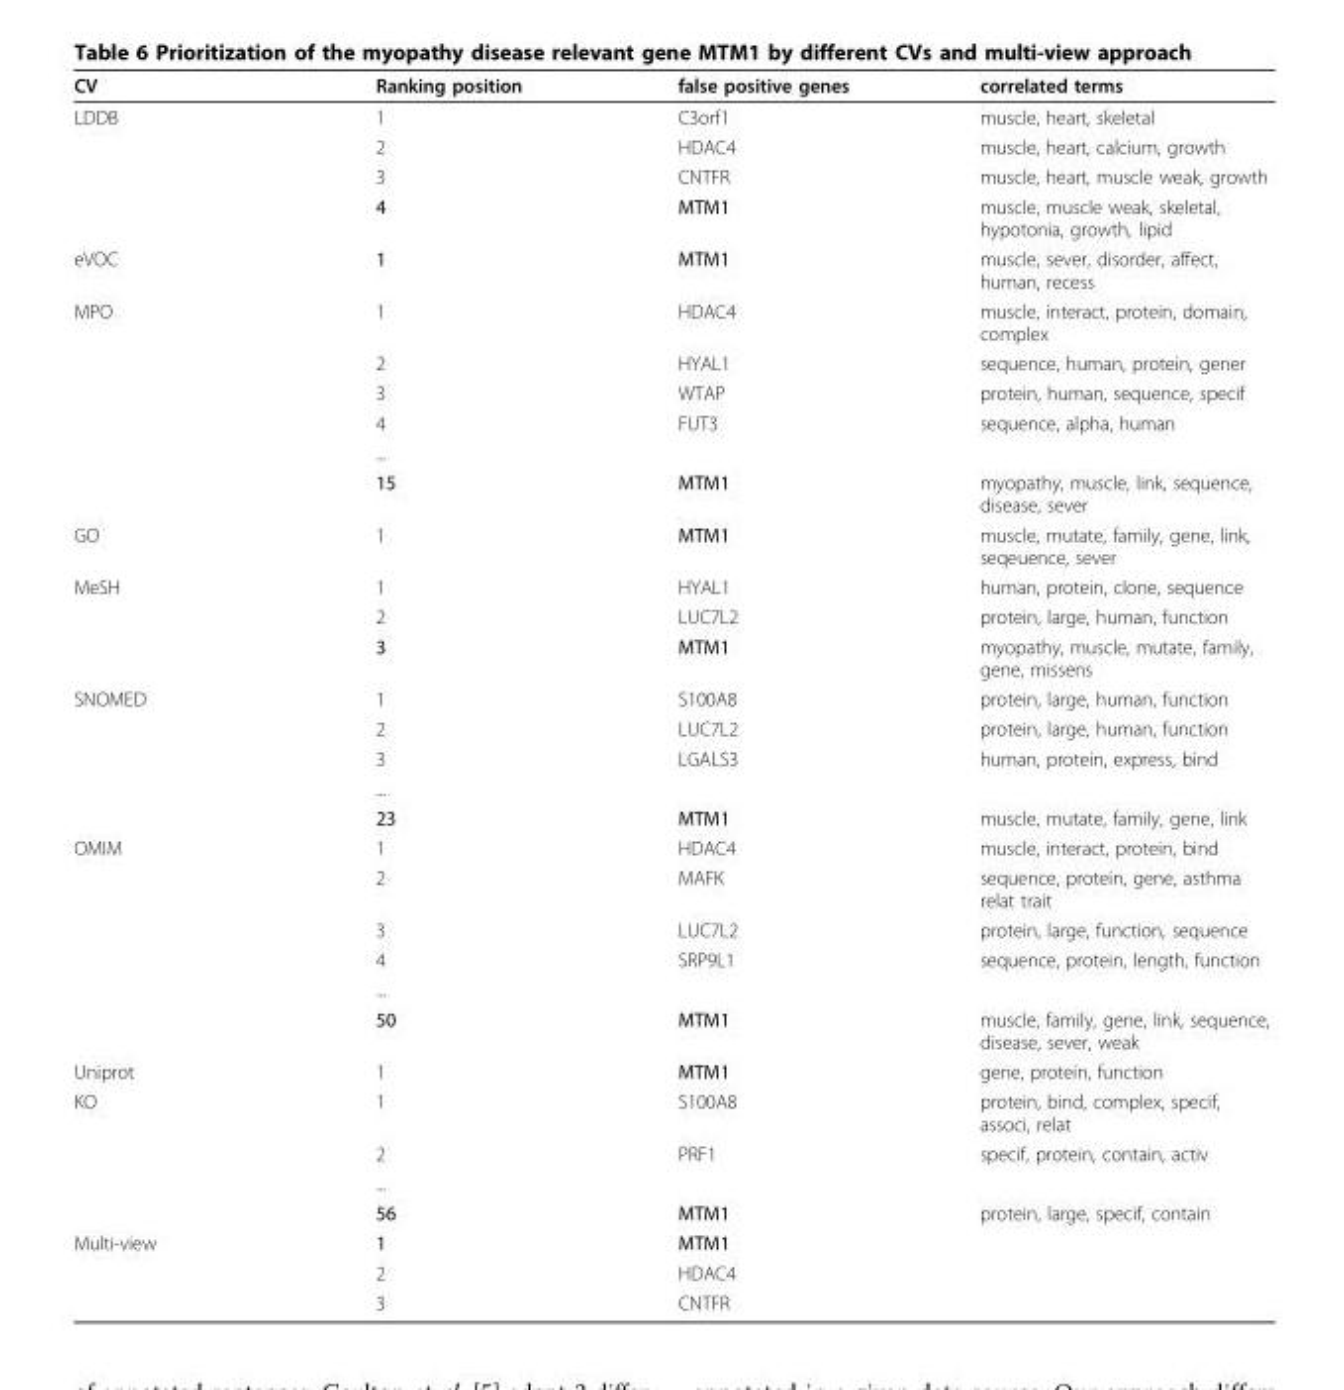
<table><thead><tr><td>CV</td><td>Ranking position</td><td>false positive genes</td><td>correlated terms</td></tr></thead><tbody><tr><td rowspan="4">LDDB</td><td>1</td><td>C3orf1</td><td>muscle, heart, skeletal</td></tr><tr><td>2</td><td>HDAC4</td><td>muscle, heart, calcium, growth</td></tr><tr><td>3</td><td>CNTFR</td><td>muscle, heart, muscle weak, growth</td></tr><tr><td>4</td><td>MTM1</td><td>muscle, muscle weak, skeletal, hypotonia, growth, lipid</td></tr><tr><td>eVOC</td><td>1</td><td>MTM1</td><td>muscle, sever, disorder, affect, human, recess</td></tr><tr><td rowspan="6">MPO</td><td>1</td><td>HDAC4</td><td>muscle, interact, protein, domain, complex</td></tr><tr><td>2</td><td>HYAL1</td><td>sequence, human, protein, gener</td></tr><tr><td>3</td><td>WTAP</td><td>protein, human, sequence, specif</td></tr><tr><td>4</td><td>FUT3</td><td>sequence, alpha, human</td></tr><tr><td>...</td><td></td><td></td></tr><tr><td>15</td><td>MTM1</td><td>myopathy, muscle, link, sequence, disease, sever</td></tr><tr><td>GO</td><td>1</td><td>MTM1</td><td>muscle, mutate, family, gene, link, seqeuence, sever</td></tr><tr><td rowspan="3">MeSH</td><td>1</td><td>HYAL1</td><td>human, protein, clone, sequence</td></tr><tr><td>2</td><td>LUC7L2</td><td>protein, large, human, function</td></tr><tr><td>3</td><td>MTM1</td><td>myopathy, muscle, mutate, family, gene, missens</td></tr><tr><td rowspan="5">SNOMED</td><td>1</td><td>S100A8</td><td>protein, large, human, function</td></tr><tr><td>2</td><td>LUC7L2</td><td>protein, large, human, function</td></tr><tr><td>3</td><td>LGALS3</td><td>human, protein, express, bind</td></tr><tr><td>...</td><td></td><td></td></tr><tr><td>23</td><td>MTM1</td><td>muscle, mutate, family, gene, link</td></tr><tr><td rowspan="6">OMIM</td><td>1</td><td>HDAC4</td><td>muscle, interact, protein, bind</td></tr><tr><td>2</td><td>MAFK</td><td>sequence, protein, gene, asthma relat trait</td></tr><tr><td>3</td><td>LUC7L2</td><td>protein, large, function, sequence</td></tr><tr><td>4</td><td>SRP9L1</td><td>sequence, protein, length, function</td></tr><tr><td>...</td><td></td><td></td></tr><tr><td>50</td><td>MTM1</td><td>muscle, family, gene, link, sequence, disease, sever, weak</td></tr><tr><td>Uniprot</td><td>1</td><td>MTM1</td><td>gene, protein, function</td></tr><tr><td rowspan="4">KO</td><td>1</td><td>S100A8</td><td>protein, bind, complex, specif, associ, relat</td></tr><tr><td>2</td><td>PRF1</td><td>specif, protein, contain, activ</td></tr><tr><td>...</td><td></td><td></td></tr><tr><td>56</td><td>MTM1</td><td>protein, large, specif, contain</td></tr><tr><td rowspan="3">Multi-view</td><td>1</td><td>MTM1</td><td></td></tr><tr><td>2</td><td>HDAC4</td><td></td></tr><tr><td>3</td><td>CNTFR</td><td></td></tr></tbody></table>